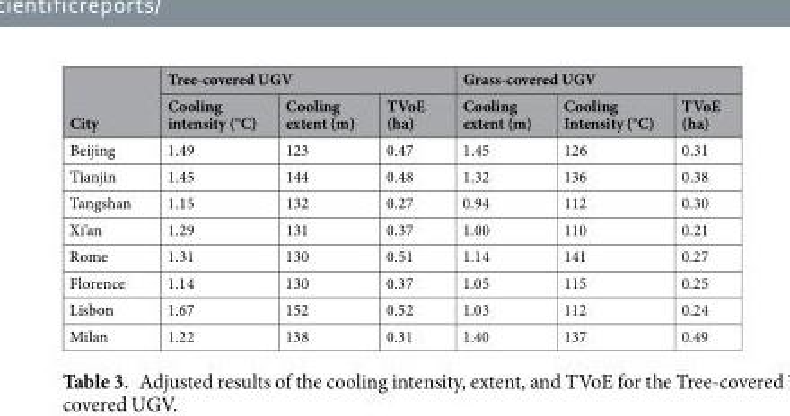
<table><thead><tr><td rowspan="2">City</td><td colspan="3">Tree-covered UGV</td><td colspan="3">Grass-covered UGV</td></tr><tr><td>Cooling intensity (°C)</td><td>Cooling extent (m)</td><td>TVoE (ha)</td><td>Cooling extent (m)</td><td>Cooling Intensity (°C)</td><td>TVoE (ha)</td></tr></thead><tbody><tr><td>Beijing</td><td>1.49</td><td>123</td><td>0.47</td><td>1.45</td><td>126</td><td>0.31</td></tr><tr><td>Tianjin</td><td>1.45</td><td>144</td><td>0.48</td><td>1.32</td><td>136</td><td>0.38</td></tr><tr><td>Tangshan</td><td>1.15</td><td>132</td><td>0.27</td><td>0.94</td><td>112</td><td>0.30</td></tr><tr><td>Xi’an</td><td>1.29</td><td>131</td><td>0.37</td><td>1.00</td><td>110</td><td>0.21</td></tr><tr><td>Rome</td><td>1.31</td><td>130</td><td>0.51</td><td>1.14</td><td>141</td><td>0.27</td></tr><tr><td>Florence</td><td>1.14</td><td>130</td><td>0.37</td><td>1.05</td><td>115</td><td>0.25</td></tr><tr><td>Lisbon</td><td>1.67</td><td>152</td><td>0.52</td><td>1.03</td><td>112</td><td>0.24</td></tr><tr><td>Milan</td><td>1.22</td><td>138</td><td>0.31</td><td>1.40</td><td>137</td><td>0.49</td></tr></tbody></table>